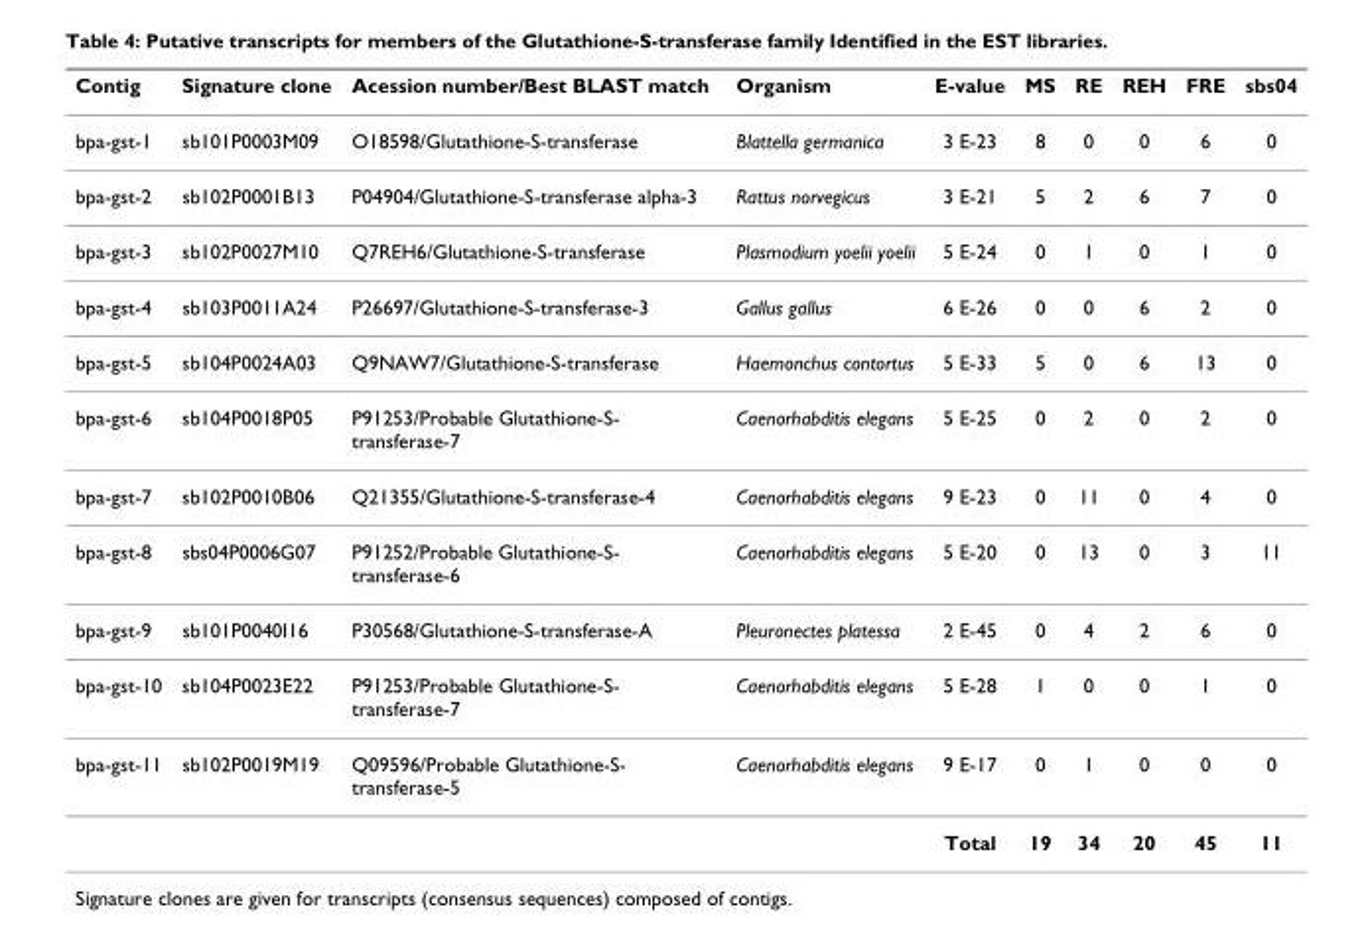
<table><thead><tr><td>Contig</td><td>Signature clone</td><td>Acession number/Best BLAST match</td><td>Organism</td><td>E-value</td><td>MS</td><td>RE</td><td>REH</td><td>FRE</td><td>sbs04</td></tr></thead><tbody><tr><td>bpa-gst-1</td><td>sb101P0003M09</td><td>O18598/Glutathione-S-transferase</td><td>Blattella germanica</td><td>3 E-23</td><td>8</td><td>0</td><td>0</td><td>6</td><td>0</td></tr><tr><td>bpa-gst-2</td><td>sb102P0001B13</td><td>P04904/Glutathione-S-transferase alpha-3</td><td>Rattus norvegicus</td><td>3 E-21</td><td>5</td><td>2</td><td>6</td><td>7</td><td>0</td></tr><tr><td>bpa-gst-3</td><td>sb102P0027M10</td><td>Q7REH6/Glutathione-S-transferase</td><td>Plasmodium yoelii yoelii</td><td>5 E-24</td><td>0</td><td>1</td><td>0</td><td>1</td><td>0</td></tr><tr><td>bpa-gst-4</td><td>sb103P0011A24</td><td>P26697/Glutathione-S-transferase-3</td><td>Gallus gallus</td><td>6 E-26</td><td>0</td><td>0</td><td>6</td><td>2</td><td>0</td></tr><tr><td>bpa-gst-5</td><td>sb104P0024A03</td><td>Q9NAW7/Glutathione-S-transferase</td><td>Haemonchus contortus</td><td>5 E-33</td><td>5</td><td>0</td><td>6</td><td>13</td><td>0</td></tr><tr><td>bpa-gst-6</td><td>sb104P0018P05</td><td>P91253/Probable Glutathione-S- transferase-7</td><td>Caenorhabditis elegans</td><td>5 E-25</td><td>0</td><td>2</td><td>0</td><td>2</td><td>0</td></tr><tr><td>bpa-gst-7</td><td>sb102P0010B06</td><td>Q21355/Glutathione-S-transferase-4</td><td>Caenorhabditis elegans</td><td>9 E-23</td><td>0</td><td>11</td><td>0</td><td>4</td><td>0</td></tr><tr><td>bpa-gst-8</td><td>sbs04P0006G07</td><td>P91252/Probable Glutathione-S- transferase-6</td><td>Caenorhabditis elegans</td><td>5 E-20</td><td>0</td><td>13</td><td>0</td><td>3</td><td>11</td></tr><tr><td>bpa-gst-9</td><td>sb101P0040I16</td><td>P30568/Glutathione-S-transferase-A</td><td>Pleuronectes platessa</td><td>2 E-45</td><td>0</td><td>4</td><td>2</td><td>6</td><td>0</td></tr><tr><td>bpa-gst-10</td><td>sb104P0023E22</td><td>P91253/Probable Glutathione-S- transferase-7</td><td>Caenorhabditis elegans</td><td>5 E-28</td><td>1</td><td>0</td><td>0</td><td>1</td><td>0</td></tr><tr><td rowspan="2">bpa-gst-11</td><td>sb102P0019M19</td><td>Q09596/Probable Glutathione-S- transferase-5</td><td>Caenorhabditis elegans</td><td>9 E-17</td><td>0</td><td>1</td><td>0</td><td>0</td><td>0</td></tr><tr><td></td><td></td><td></td><td>Total</td><td>19</td><td>34</td><td>20</td><td>45</td><td>11</td></tr></tbody></table>